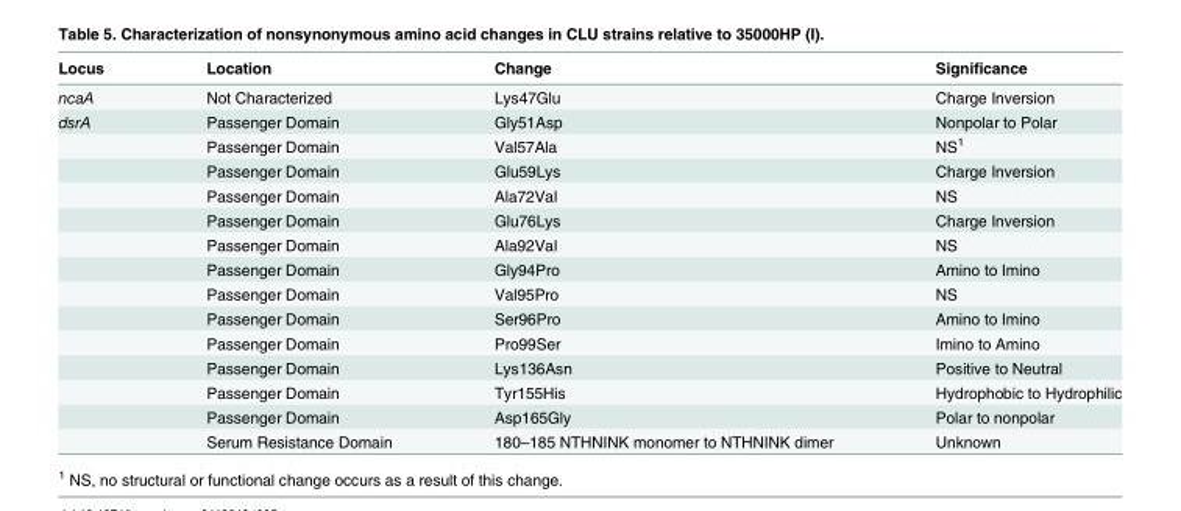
<table><thead><tr><td>Locus</td><td>Location</td><td>Change</td><td>Significance</td></tr></thead><tbody><tr><td>ncaA</td><td>Not Characterized</td><td>Lys47Glu</td><td>Charge Inversion</td></tr><tr><td rowspan="14">dsrA</td><td>Passenger Domain</td><td>Gly51Asp</td><td>Nonpolar to Polar</td></tr><tr><td>Passenger Domain</td><td>Val57Ala</td><td>NS<sup>1</sup></td></tr><tr><td>Passenger Domain</td><td>Glu59Lys</td><td>Charge Inversion</td></tr><tr><td>Passenger Domain</td><td>Ala72Val</td><td>NS</td></tr><tr><td>Passenger Domain</td><td>Glu76Lys</td><td>Charge Inversion</td></tr><tr><td>Passenger Domain</td><td>Ala92Val</td><td>NS</td></tr><tr><td>Passenger Domain</td><td>Gly94Pro</td><td>Amino to Imino</td></tr><tr><td>Passenger Domain</td><td>Val95Pro</td><td>NS</td></tr><tr><td>Passenger Domain</td><td>Ser96Pro</td><td>Amino to Imino</td></tr><tr><td>Passenger Domain</td><td>Pro99Ser</td><td>Imino to Amino</td></tr><tr><td>Passenger Domain</td><td>Lys136Asn</td><td>Positive to Neutral</td></tr><tr><td>Passenger Domain</td><td>Tyr155His</td><td>Hydrophobic to Hydrophilic</td></tr><tr><td>Passenger Domain</td><td>Asp165Gly</td><td>Polar to nonpolar</td></tr><tr><td>Serum Resistance Domain</td><td>180–185 NTHNINK monomer to NTHNINK dimer</td><td>Unknown</td></tr></tbody></table>